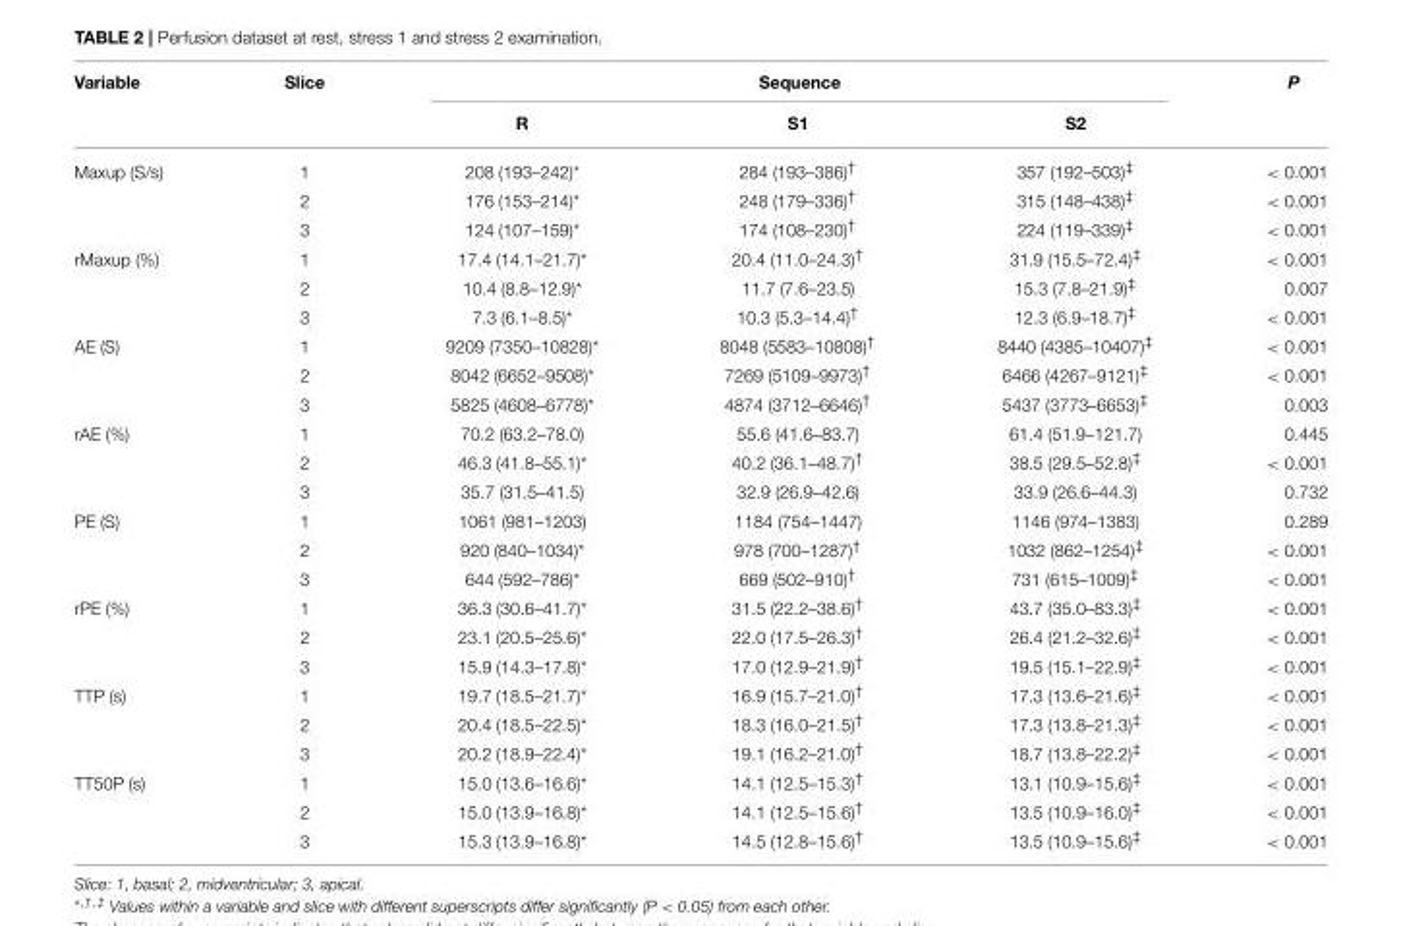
<table><thead><tr><td rowspan="2">Variable</td><td rowspan="2">Slice</td><td colspan="3">Sequence</td><td rowspan="2">P</td></tr><tr><td>R</td><td>S1</td><td>S2</td></tr></thead><tbody><tr><td rowspan="3">Maxup (S/s)</td><td>1</td><td>208 (193–242)*</td><td>284 (193–386)<sup>†</sup></td><td>357 (192–503)<sup>‡</sup></td><td>&lt; 0.001</td></tr><tr><td>2</td><td>176 (153–214)*</td><td>248 (179–336)<sup>†</sup></td><td>315 (148–438)<sup>‡</sup></td><td>&lt; 0.001</td></tr><tr><td>3</td><td>124 (107–159)*</td><td>174 (108–230)<sup>†</sup></td><td>224 (119–339)<sup>‡</sup></td><td>&lt; 0.001</td></tr><tr><td rowspan="3">rMaxup (%)</td><td>1</td><td>17.4 (14.1–21.7)*</td><td>20.4 (11.0–24.3)<sup>†</sup></td><td>31.9 (15.5–72.4)<sup>‡</sup></td><td>&lt; 0.001</td></tr><tr><td>2</td><td>10.4 (8.8–12.9)*</td><td>11.7 (7.6–23.5)</td><td>15.3 (7.8–21.9)<sup>‡</sup></td><td>0.007</td></tr><tr><td>3</td><td>7.3 (6.1–8.5)*</td><td>10.3 (5.3–14.4)<sup>†</sup></td><td>12.3 (6.9–18.7)<sup>‡</sup></td><td>&lt; 0.001</td></tr><tr><td rowspan="3">AE (S)</td><td>1</td><td>9209 (7350–10828)*</td><td>8048 (5583–10808)<sup>†</sup></td><td>8440 (4385–10407)<sup>‡</sup></td><td>&lt; 0.001</td></tr><tr><td>2</td><td>8042 (6652–9508)*</td><td>7269 (5109–9973)<sup>†</sup></td><td>6466 (4267–9121)<sup>‡</sup></td><td>&lt; 0.001</td></tr><tr><td>3</td><td>5825 (4608–6778)*</td><td>4874 (3712–6646)<sup>†</sup></td><td>5437 (3773–6653)<sup>‡</sup></td><td>0.003</td></tr><tr><td rowspan="3">rAE (%)</td><td>1</td><td>70.2 (63.2–78.0)</td><td>55.6 (41.6–83.7)</td><td>61.4 (51.9–121.7)</td><td>0.445</td></tr><tr><td>2</td><td>46.3 (41.8–55.1)*</td><td>40.2 (36.1–48.7)<sup>†</sup></td><td>38.5 (29.5–52.8)<sup>‡</sup></td><td>&lt; 0.001</td></tr><tr><td>3</td><td>35.7 (31.5–41.5)</td><td>32.9 (26.9–42.6)</td><td>33.9 (26.6–44.3)</td><td>0.732</td></tr><tr><td rowspan="3">PE (S)</td><td>1</td><td>1061 (981–1203)</td><td>1184 (754–1447)</td><td>1146 (974–1383)</td><td>0.289</td></tr><tr><td>2</td><td>920 (840–1034)*</td><td>978 (700–1287)<sup>†</sup></td><td>1032 (862–1254)<sup>‡</sup></td><td>&lt; 0.001</td></tr><tr><td>3</td><td>644 (592–786)*</td><td>669 (502–910)<sup>†</sup></td><td>731 (615–1009)<sup>‡</sup></td><td>&lt; 0.001</td></tr><tr><td rowspan="3">rPE (%)</td><td>1</td><td>36.3 (30.6–41.7)*</td><td>31.5 (22.2–38.6)<sup>†</sup></td><td>43.7 (35.0–83.3)<sup>‡</sup></td><td>&lt; 0.001</td></tr><tr><td>2</td><td>23.1 (20.5–25.6)*</td><td>22.0 (17.5–26.3)<sup>†</sup></td><td>26.4 (21.2–32.6)<sup>‡</sup></td><td>&lt; 0.001</td></tr><tr><td>3</td><td>15.9 (14.3–17.8)*</td><td>17.0 (12.9–21.9)<sup>†</sup></td><td>19.5 (15.1–22.9)<sup>‡</sup></td><td>&lt; 0.001</td></tr><tr><td rowspan="3">TTP (s)</td><td>1</td><td>19.7 (18.5–21.7)*</td><td>16.9 (15.7–21.0)<sup>†</sup></td><td>17.3 (13.6–21.6)<sup>‡</sup></td><td>&lt; 0.001</td></tr><tr><td>2</td><td>20.4 (18.5–22.5)*</td><td>18.3 (16.0–21.5)<sup>†</sup></td><td>17.3 (13.8–21.3)<sup>‡</sup></td><td>&lt; 0.001</td></tr><tr><td>3</td><td>20.2 (18.9–22.4)*</td><td>19.1 (16.2–21.0)<sup>†</sup></td><td>18.7 (13.8–22.2)<sup>‡</sup></td><td>&lt; 0.001</td></tr><tr><td rowspan="3">TT50P (s)</td><td>1</td><td>15.0 (13.6–16.6)*</td><td>14.1 (12.5–15.3)<sup>†</sup></td><td>13.1 (10.9–15.6)<sup>‡</sup></td><td>&lt; 0.001</td></tr><tr><td>2</td><td>15.0 (13.9–16.8)*</td><td>14.1 (12.5–15.6)<sup>†</sup></td><td>13.5 (10.9–16.0)<sup>‡</sup></td><td>&lt; 0.001</td></tr><tr><td>3</td><td>15.3 (13.9–16.8)*</td><td>14.5 (12.8–15.6)<sup>†</sup></td><td>13.5 (10.9–15.6)<sup>‡</sup></td><td>&lt; 0.001</td></tr></tbody></table>